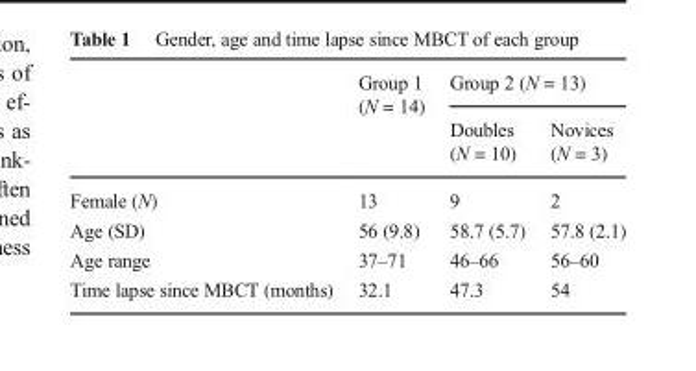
<table><thead><tr><td rowspan="2"></td><td rowspan="2">Group 1 (N = 14)</td><td colspan="2">Group 2 (N = 13)</td></tr><tr><td>Doubles (N = 10)</td><td>Novices (N = 3)</td></tr></thead><tbody><tr><td>Female (N)</td><td>13</td><td>9</td><td>2</td></tr><tr><td>Age (SD)</td><td>56 (9.8)</td><td>58.7 (5.7)</td><td>57.8 (2.1)</td></tr><tr><td>Age range</td><td>37–71</td><td>46–66</td><td>56–60</td></tr><tr><td>Time lapse since MBCT (months)</td><td>32.1</td><td>47.3</td><td>54</td></tr></tbody></table>